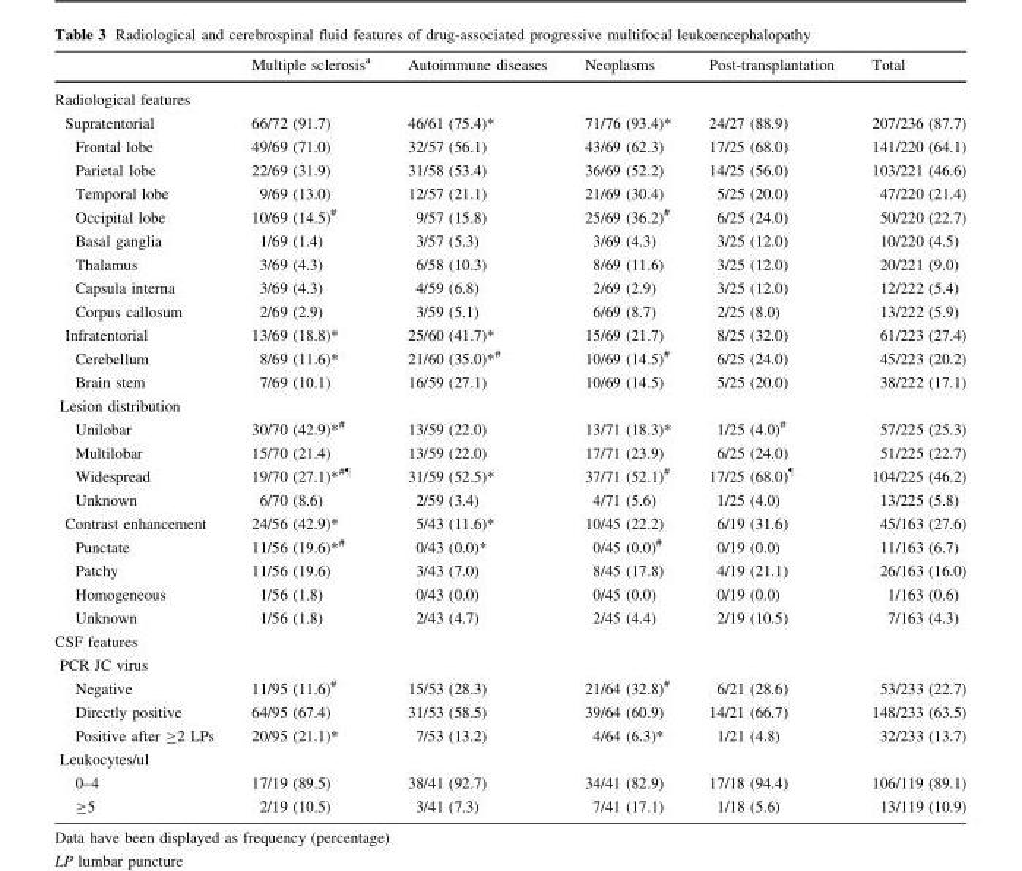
<table><thead><tr><td></td><td>Multiple sclerosis<sup>a</sup></td><td>Autoimmune diseases</td><td>Neoplasms</td><td>Post-transplantation</td><td>Total</td></tr></thead><tbody><tr><td colspan="6">Radiological features</td></tr><tr><td>Supratentorial</td><td>66/72 (91.7)</td><td>46/61 (75.4)*</td><td>71/76 (93.4)*</td><td>24/27 (88.9)</td><td>207/236 (87.7)</td></tr><tr><td>Frontal lobe</td><td>49/69 (71.0)</td><td>32/57 (56.1)</td><td>43/69 (62.3)</td><td>17/25 (68.0)</td><td>141/220 (64.1)</td></tr><tr><td>Parietal lobe</td><td>22/69 (31.9)</td><td>31/58 (53.4)</td><td>36/69 (52.2)</td><td>14/25 (56.0)</td><td>103/221 (46.6)</td></tr><tr><td>Temporal lobe</td><td>9/69 (13.0)</td><td>12/57 (21.1)</td><td>21/69 (30.4)</td><td>5/25 (20.0)</td><td>47/220 (21.4)</td></tr><tr><td>Occipital lobe</td><td>10/69 (14.5)<sup>#</sup></td><td>9/57 (15.8)</td><td>25/69 (36.2)<sup>#</sup></td><td>6/25 (24.0)</td><td>50/220 (22.7)</td></tr><tr><td>Basal ganglia</td><td>1/69 (1.4)</td><td>3/57 (5.3)</td><td>3/69 (4.3)</td><td>3/25 (12.0)</td><td>10/220 (4.5)</td></tr><tr><td>Thalamus</td><td>3/69 (4.3)</td><td>6/58 (10.3)</td><td>8/69 (11.6)</td><td>3/25 (12.0)</td><td>20/221 (9.0)</td></tr><tr><td>Capsula interna</td><td>3/69 (4.3)</td><td>4/59 (6.8)</td><td>2/69 (2.9)</td><td>3/25 (12.0)</td><td>12/222 (5.4)</td></tr><tr><td>Corpus callosum</td><td>2/69 (2.9)</td><td>3/59 (5.1)</td><td>6/69 (8.7)</td><td>2/25 (8.0)</td><td>13/222 (5.9)</td></tr><tr><td>Infratentorial</td><td>13/69 (18.8)*</td><td>25/60 (41.7)*</td><td>15/69 (21.7)</td><td>8/25 (32.0)</td><td>61/223 (27.4)</td></tr><tr><td>Cerebellum</td><td>8/69 (11.6)*</td><td>21/60 (35.0)*<sup>#</sup></td><td>10/69 (14.5)<sup>#</sup></td><td>6/25 (24.0)</td><td>45/223 (20.2)</td></tr><tr><td>Brain stem</td><td>7/69 (10.1)</td><td>16/59 (27.1)</td><td>10/69 (14.5)</td><td>5/25 (20.0)</td><td>38/222 (17.1)</td></tr><tr><td colspan="6">Lesion distribution</td></tr><tr><td>Unilobar</td><td>30/70 (42.9)*<sup>#</sup></td><td>13/59 (22.0)</td><td>13/71 (18.3)*</td><td>1/25 (4.0)<sup>#</sup></td><td>57/225 (25.3)</td></tr><tr><td>Multilobar</td><td>15/70 (21.4)</td><td>13/59 (22.0)</td><td>17/71 (23.9)</td><td>6/25 (24.0)</td><td>51/225 (22.7)</td></tr><tr><td>Widespread</td><td>19/70 (27.1)*<sup>#¶</sup></td><td>31/59 (52.5)*</td><td>37/71 (52.1)<sup>#</sup></td><td>17/25 (68.0)<sup>¶</sup></td><td>104/225 (46.2)</td></tr><tr><td>Unknown</td><td>6/70 (8.6)</td><td>2/59 (3.4)</td><td>4/71 (5.6)</td><td>1/25 (4.0)</td><td>13/225 (5.8)</td></tr><tr><td>Contrast enhancement</td><td>24/56 (42.9)*</td><td>5/43 (11.6)*</td><td>10/45 (22.2)</td><td>6/19 (31.6)</td><td>45/163 (27.6)</td></tr><tr><td>Punctate</td><td>11/56 (19.6)*<sup>#</sup></td><td>0/43 (0.0)*</td><td>0/45 (0.0)<sup>#</sup></td><td>0/19 (0.0)</td><td>11/163 (6.7)</td></tr><tr><td>Patchy</td><td>11/56 (19.6)</td><td>3/43 (7.0)</td><td>8/45 (17.8)</td><td>4/19 (21.1)</td><td>26/163 (16.0)</td></tr><tr><td>Homogeneous</td><td>1/56 (1.8)</td><td>0/43 (0.0)</td><td>0/45 (0.0)</td><td>0/19 (0.0)</td><td>1/163 (0.6)</td></tr><tr><td>Unknown</td><td>1/56 (1.8)</td><td>2/43 (4.7)</td><td>2/45 (4.4)</td><td>2/19 (10.5)</td><td>7/163 (4.3)</td></tr><tr><td colspan="6">CSF features</td></tr><tr><td colspan="6">PCR JC virus</td></tr><tr><td>Negative</td><td>11/95 (11.6)<sup>#</sup></td><td>15/53 (28.3)</td><td>21/64 (32.8)<sup>#</sup></td><td>6/21 (28.6)</td><td>53/233 (22.7)</td></tr><tr><td>Directly positive</td><td>64/95 (67.4)</td><td>31/53 (58.5)</td><td>39/64 (60.9)</td><td>14/21 (66.7)</td><td>148/233 (63.5)</td></tr><tr><td>Positive after ≥2 LPs</td><td>20/95 (21.1)*</td><td>7/53 (13.2)</td><td>4/64 (6.3)*</td><td>1/21 (4.8)</td><td>32/233 (13.7)</td></tr><tr><td colspan="6">Leukocytes/ul</td></tr><tr><td>0–4</td><td>17/19 (89.5)</td><td>38/41 (92.7)</td><td>34/41 (82.9)</td><td>17/18 (94.4)</td><td>106/119 (89.1)</td></tr><tr><td>≥5</td><td>2/19 (10.5)</td><td>3/41 (7.3)</td><td>7/41 (17.1)</td><td>1/18 (5.6)</td><td>13/119 (10.9)</td></tr></tbody></table>